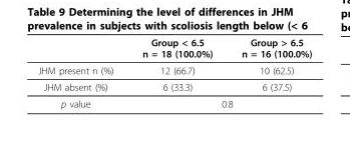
<table><thead><tr><td></td><td>Group &lt; 6.5 n = 18 (100.0%)</td><td>Group &gt; 6.5 n = 16 (100.0%)</td></tr></thead><tbody><tr><td>JHM present n (%)</td><td>12 (66.7)</td><td>10 (62.5)</td></tr><tr><td>JHM absent (%)</td><td>6 (33.3)</td><td>6 (37.5)</td></tr><tr><td>p value</td><td colspan="2">0.8</td></tr></tbody></table>